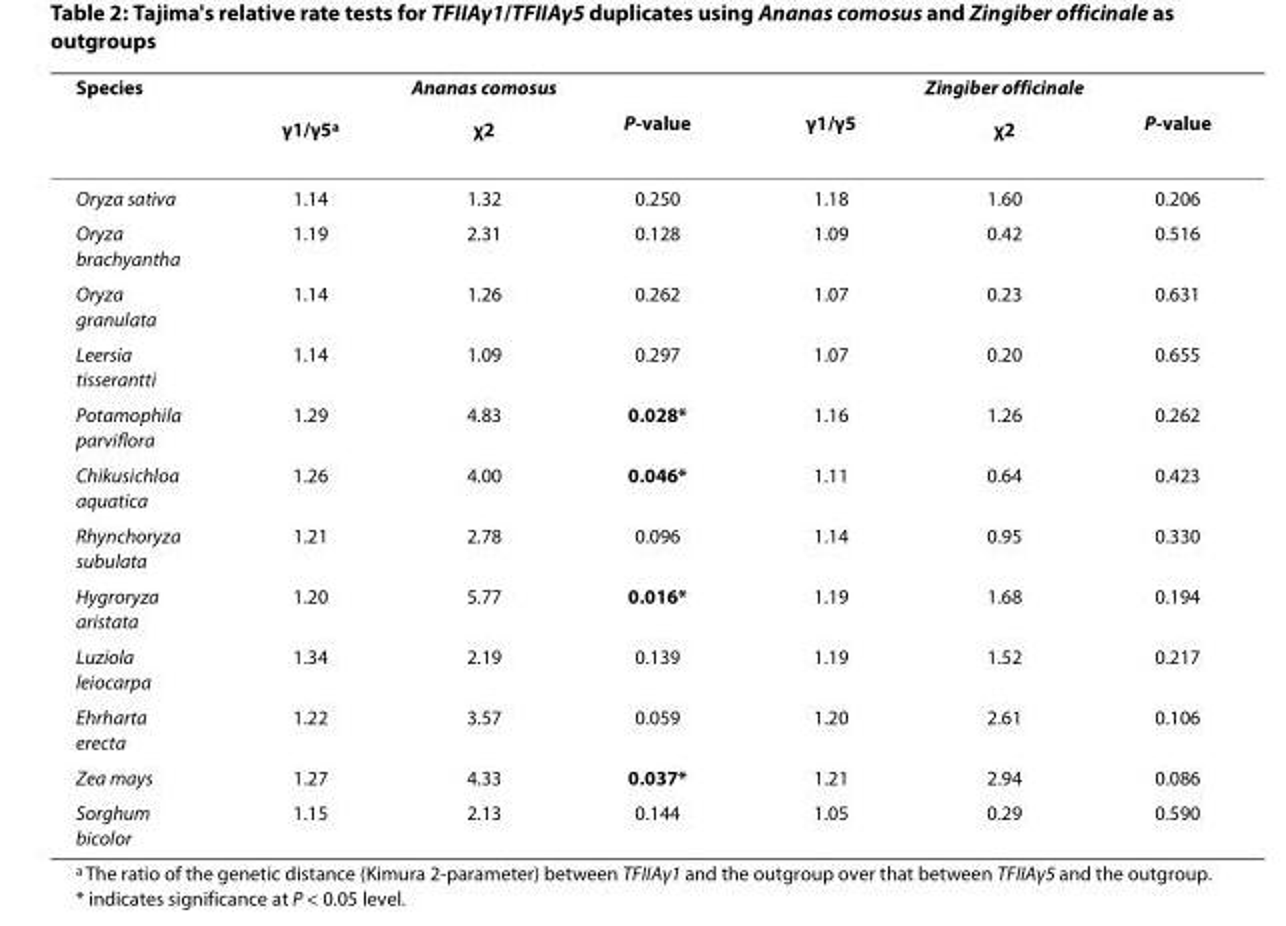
<table><thead><tr><td rowspan="2">Species</td><td colspan="3">Ananas comosus</td><td colspan="3">Zingiber officinale</td></tr><tr><td>γ1/γ5<sup>a</sup></td><td>χ<sup>2</sup></td><td>P-value</td><td>γ1/γ5</td><td>χ<sup>2</sup></td><td>P-value</td></tr></thead><tbody><tr><td>Oryza sativa</td><td>1.14</td><td>1.32</td><td>0.250</td><td>1.18</td><td>1.60</td><td>0.206</td></tr><tr><td>Oryza brachyantha</td><td>1.19</td><td>2.31</td><td>0.128</td><td>1.09</td><td>0.42</td><td>0.516</td></tr><tr><td>Oryza granulata</td><td>1.14</td><td>1.26</td><td>0.262</td><td>1.07</td><td>0.23</td><td>0.631</td></tr><tr><td>Leersia tisserantti</td><td>1.14</td><td>1.09</td><td>0.297</td><td>1.07</td><td>0.20</td><td>0.655</td></tr><tr><td>Potamophila parviflora</td><td>1.29</td><td>4.83</td><td>0.028*</td><td>1.16</td><td>1.26</td><td>0.262</td></tr><tr><td>Chikusichloa aquatica</td><td>1.26</td><td>4.00</td><td>0.046*</td><td>1.11</td><td>0.64</td><td>0.423</td></tr><tr><td>Rhynchoryza subulata</td><td>1.21</td><td>2.78</td><td>0.096</td><td>1.14</td><td>0.95</td><td>0.330</td></tr><tr><td>Hygroryza aristata</td><td>1.20</td><td>5.77</td><td>0.016*</td><td>1.19</td><td>1.68</td><td>0.194</td></tr><tr><td>Luziola leiocarpa</td><td>1.34</td><td>2.19</td><td>0.139</td><td>1.19</td><td>1.52</td><td>0.217</td></tr><tr><td>Ehrharta erecta</td><td>1.22</td><td>3.57</td><td>0.059</td><td>1.20</td><td>2.61</td><td>0.106</td></tr><tr><td>Zea mays</td><td>1.27</td><td>4.33</td><td>0.037*</td><td>1.21</td><td>2.94</td><td>0.086</td></tr><tr><td>Sorghum bicolor</td><td>1.15</td><td>2.13</td><td>0.144</td><td>1.05</td><td>0.29</td><td>0.590</td></tr></tbody></table>